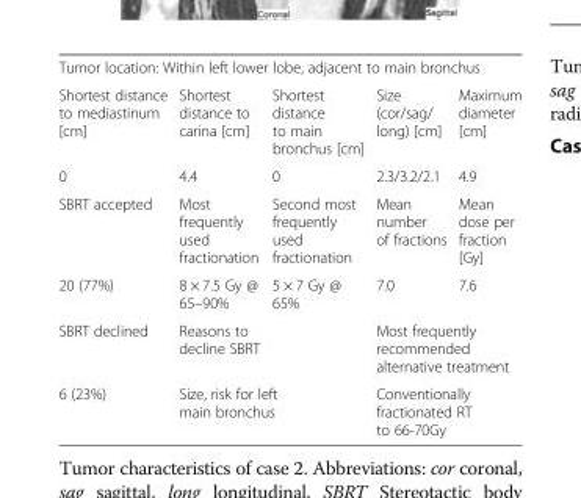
<table><tbody><tr><td colspan="5">Tumor location: Within left lower lobe, adjacent to main bronchus</td></tr><tr><td>Shortest distance to mediastinum [cm]</td><td>Shortest distance to carina [cm]</td><td>Shortest distance to main bronchus [cm]</td><td>Size (cor/sag/ long) [cm]</td><td>Maximum diameter [cm]</td></tr><tr><td>0</td><td>4.4</td><td>0</td><td>2.3/3.2/2.1</td><td>4.9</td></tr><tr><td>SBRT accepted</td><td>Most frequently used fractionation</td><td>Second most frequently used fractionation</td><td>Mean number of fractions</td><td>Mean dose per fraction [Gy]</td></tr><tr><td>20 (77%)</td><td>8 × 7.5 Gy @ 65–90%</td><td>5 × 7 Gy @ 65%</td><td>7.0</td><td>7.6</td></tr><tr><td>SBRT declined</td><td colspan="2">Reasons to decline SBRT</td><td colspan="2">Most frequently recommended alternative treatment</td></tr><tr><td>6 (23%)</td><td colspan="2">Size, risk for left main bronchus</td><td colspan="2">Conventionally fractionated RT to 66-70Gy</td></tr></tbody></table>